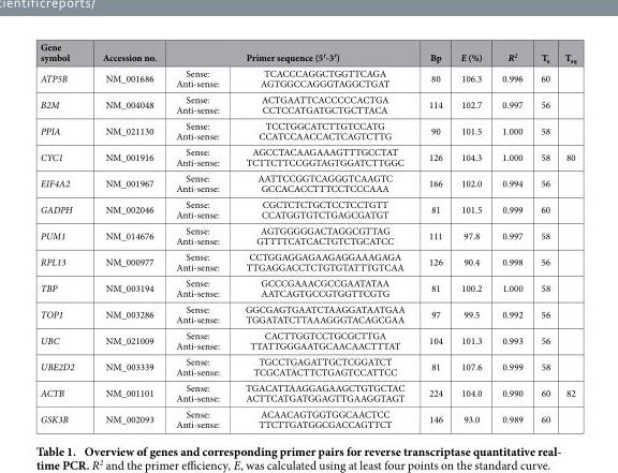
<table><thead><tr><td rowspan="2">Gene symbol ATP5B</td><td rowspan="2">Accession no. NM_001686</td><td colspan="2">Primer sequence (5′-3′)</td><td rowspan="2">Bp 80</td><td rowspan="2">E (%) 106.3</td><td rowspan="2">R<sup>2</sup> 0.996</td><td rowspan="2">T<sub>a</sub> 60</td><td rowspan="2">T<sub>aq</sub></td></tr><tr><td>Sense: Anti-sense:</td><td>TCACCCAGGCTGGTTCAGA AGTGGCCAGGGTAGGCTGAT</td></tr></thead><tbody><tr><td>B2M</td><td>NM_004048</td><td>Sense: Anti-sense:</td><td>ACTGAATTCACCCCCACTGA CCTCCATGATGCTGCTTACA</td><td>114</td><td>102.7</td><td>0.997</td><td>56</td><td></td></tr><tr><td>PPIA</td><td>NM_021130</td><td>Sense: Anti-sense:</td><td>TCCTGGCATCTTGTCCATG CCATCCAACCACTCAGTCTTG</td><td>90</td><td>101.5</td><td>1.000</td><td>58</td><td></td></tr><tr><td>CYC1</td><td>NM_001916</td><td>Sense: Anti-sense:</td><td>AGCCTACAAGAAAGTTTGCCTAT TCTTCTTCCGGTAGTGGATCTTGGC</td><td>126</td><td>104.3</td><td>1.000</td><td>58</td><td>80</td></tr><tr><td>EIF4A2</td><td>NM_001967</td><td>Sense: Anti-sense:</td><td>AATTCCGGTCAGGGTCAAGTC GCCACACCTTTCCTCCCAAA</td><td>166</td><td>102.0</td><td>0.994</td><td>56</td><td></td></tr><tr><td>GADPH</td><td>NM_002046</td><td>Sense: Anti-sense:</td><td>CGCTCTCTGCTCCTCCTGTT CCATGGTGTCTGAGCGATGT</td><td>81</td><td>101.5</td><td>0.999</td><td>60</td><td></td></tr><tr><td>PUM1</td><td>NM_014676</td><td>Sense: Anti-sense:</td><td>AGTGGGGGACTAGGCGTTAG GTTTTCATCACTGTCTGCATCC</td><td>111</td><td>97.8</td><td>0.997</td><td>58</td><td></td></tr><tr><td>RPL13</td><td>NM_000977</td><td>Sense: Anti-sense:</td><td>CCTGGAGGAGAAGAGGAAAGAGA TTGAGGACCTCTGTGTATTTGTCAA</td><td>126</td><td>90.4</td><td>0.998</td><td>56</td><td></td></tr><tr><td>TBP</td><td>NM_003194</td><td>Sense: Anti-sense:</td><td>GCCCGAAACGCCGAATATAA AATCAGTGCCGTGGTTCGTG</td><td>81</td><td>100.2</td><td>1.000</td><td>58</td><td></td></tr><tr><td>TOP1</td><td>NM_003286</td><td>Sense: Anti-sense:</td><td>GGCGAGTGAATCTAAGGATAATGAA TGGATATCTTAAAGGGTACAGCGAA</td><td>97</td><td>99.5</td><td>0.992</td><td>56</td><td></td></tr><tr><td>UBC</td><td>NM_021009</td><td>Sense: Anti-sense:</td><td>CACTTGGTCCTGCGCTTGA TTATTGGGAATGCAACAACTTTAT</td><td>104</td><td>101.3</td><td>0.993</td><td>56</td><td></td></tr><tr><td>UBE2D2</td><td>NM_003339</td><td>Sense: Anti-sense:</td><td>TGCCTGAGATTGCTCGGATCT TCGCATACTTCTGAGTCCATTCC</td><td>81</td><td>107.6</td><td>0.999</td><td>58</td><td></td></tr><tr><td>ACTB</td><td>NM_001101</td><td>Sense: Anti-sense:</td><td>TGACATTAAGGAGAAGCTGTGCTAC ACTTCATGATGGAGTTGAAGGTAGT</td><td>224</td><td>104.0</td><td>0.990</td><td>60</td><td>82</td></tr><tr><td>GSK3B</td><td>NM_002093</td><td>Sense: Anti-sense:</td><td>ACAACAGTGGTGGCAACTCC TTCTTGATGGCGACCAGTTCT</td><td>146</td><td>93.0</td><td>0.989</td><td>60</td><td></td></tr></tbody></table>